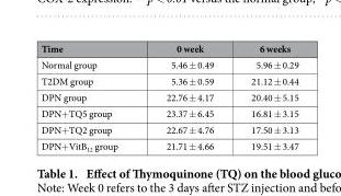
<table><thead><tr><td>Time</td><td>0 week</td><td>6 weeks</td></tr></thead><tbody><tr><td>Normal group</td><td>5.46 ± 0.49</td><td>5.96 ± 0.29</td></tr><tr><td>T2DM group</td><td>5.36 ± 0.59</td><td>21.12 ± 0.44</td></tr><tr><td>DPN group</td><td>22.76 ± 4.17</td><td>20.40 ± 5.15</td></tr><tr><td>DPN+ TQ5 group</td><td>23.37 ± 6.45</td><td>16.81 ± 3.15</td></tr><tr><td>DPN+ TQ2 group</td><td>22.67 ± 4.76</td><td>17.50 ± 3.13</td></tr><tr><td>DPN+ VitB<sub>12</sub> group</td><td>21.71 ± 4.66</td><td>19.51 ± 3.47</td></tr></tbody></table>